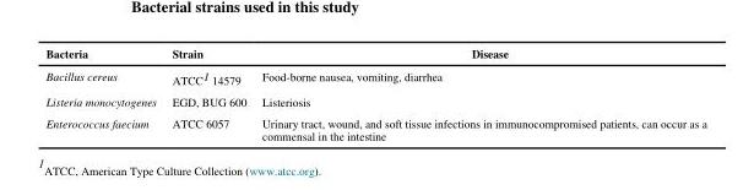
<table><thead><tr><td>Bacteria</td><td>Strain</td><td>Disease</td></tr></thead><tbody><tr><td>Bacillus cereus</td><td>ATCC<sup>1</sup> 14579</td><td>Food-borne nausea, vomiting, diarrhea</td></tr><tr><td>Listeria monocytogenes</td><td>EGD, BUG 600</td><td>Listeriosis</td></tr><tr><td>Enterococcus faecium</td><td>ATCC 6057</td><td>Urinary tract, wound, and soft tissue infections in immunocompromised patients, can occur as a commensal in the intestine</td></tr></tbody></table>